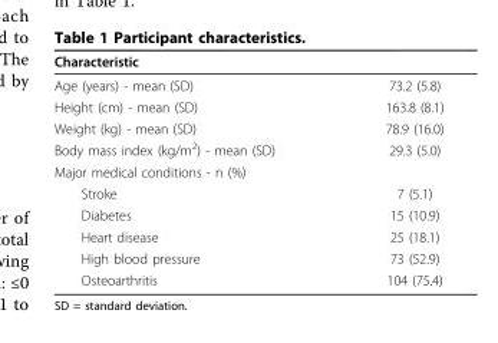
<table><thead><tr><td>Characteristic</td><td></td></tr></thead><tbody><tr><td>Age (years) - mean (SD)</td><td>73.2 (5.8)</td></tr><tr><td>Height (cm) - mean (SD)</td><td>163.8 (8.1)</td></tr><tr><td>Weight (kg) - mean (SD)</td><td>78.9 (16.0)</td></tr><tr><td>Body mass index (kg/m<sup>2</sup>) - mean (SD)</td><td>29.3 (5.0)</td></tr><tr><td colspan="2">Major medical conditions - n (%)</td></tr><tr><td>Stroke</td><td>7 (5.1)</td></tr><tr><td>Diabetes</td><td>15 (10.9)</td></tr><tr><td>Heart disease</td><td>25 (18.1)</td></tr><tr><td>High blood pressure</td><td>73 (52.9)</td></tr><tr><td>Osteoarthritis</td><td>104 (75.4)</td></tr></tbody></table>